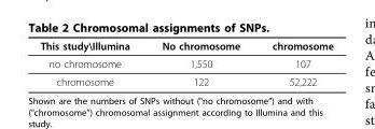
<table><thead><tr><td>This study\Illumina</td><td>No chromosome</td><td>chromosome</td></tr></thead><tbody><tr><td>no chromosome</td><td>1,550</td><td>107</td></tr><tr><td>chromosome</td><td>122</td><td>52,222</td></tr></tbody></table>